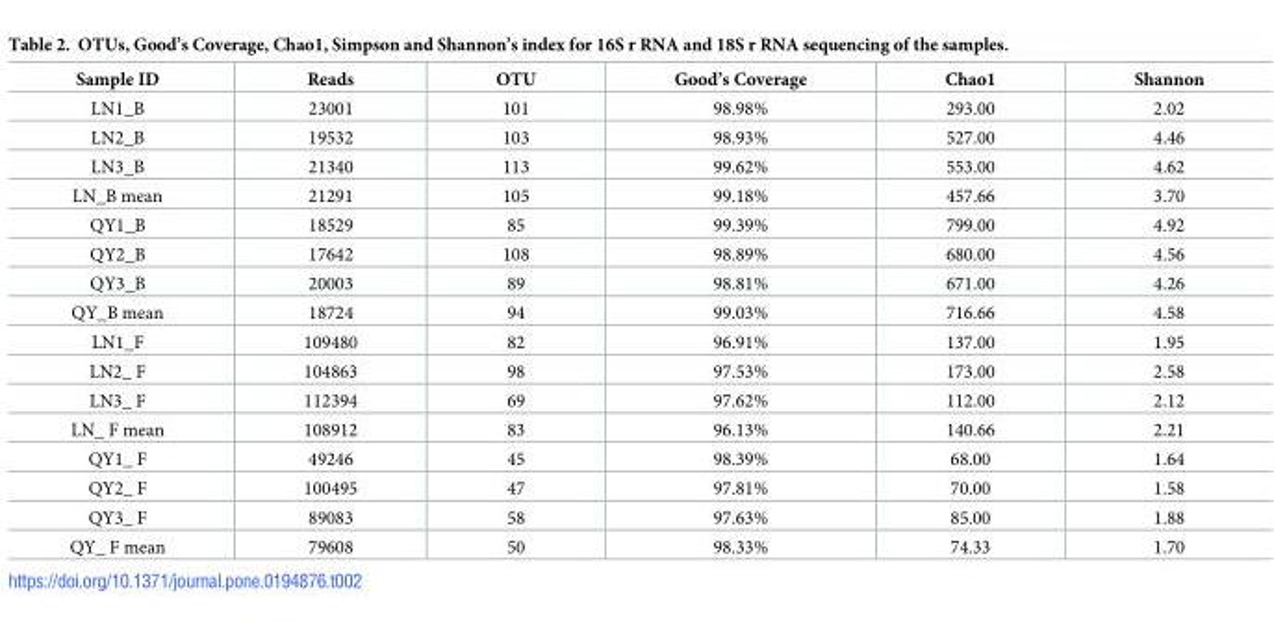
<table><thead><tr><td>Sample ID</td><td>Reads</td><td>OTU</td><td>Good’s Coverage</td><td>Chao1</td><td>Shannon</td></tr></thead><tbody><tr><td>LN1_B</td><td>23001</td><td>101</td><td>98.98%</td><td>293.00</td><td>2.02</td></tr><tr><td>LN2_B</td><td>19532</td><td>103</td><td>98.93%</td><td>527.00</td><td>4.46</td></tr><tr><td>LN3_B</td><td>21340</td><td>113</td><td>99.62%</td><td>553.00</td><td>4.62</td></tr><tr><td>LN_B mean</td><td>21291</td><td>105</td><td>99.18%</td><td>457.66</td><td>3.70</td></tr><tr><td>QY1_B</td><td>18529</td><td>85</td><td>99.39%</td><td>799.00</td><td>4.92</td></tr><tr><td>QY2_B</td><td>17642</td><td>108</td><td>98.89%</td><td>680.00</td><td>4.56</td></tr><tr><td>QY3_B</td><td>20003</td><td>89</td><td>98.81%</td><td>671.00</td><td>4.26</td></tr><tr><td>QY_B mean</td><td>18724</td><td>94</td><td>99.03%</td><td>716.66</td><td>4.58</td></tr><tr><td>LN1_F</td><td>109480</td><td>82</td><td>96.91%</td><td>137.00</td><td>1.95</td></tr><tr><td>LN2_ F</td><td>104863</td><td>98</td><td>97.53%</td><td>173.00</td><td>2.58</td></tr><tr><td>LN3_ F</td><td>112394</td><td>69</td><td>97.62%</td><td>112.00</td><td>2.12</td></tr><tr><td>LN_ F mean</td><td>108912</td><td>83</td><td>96.13%</td><td>140.66</td><td>2.21</td></tr><tr><td>QY1_ F</td><td>49246</td><td>45</td><td>98.39%</td><td>68.00</td><td>1.64</td></tr><tr><td>QY2_ F</td><td>100495</td><td>47</td><td>97.81%</td><td>70.00</td><td>1.58</td></tr><tr><td>QY3_ F</td><td>89083</td><td>58</td><td>97.63%</td><td>85.00</td><td>1.88</td></tr><tr><td>QY_ F mean</td><td>79608</td><td>50</td><td>98.33%</td><td>74.33</td><td>1.70</td></tr></tbody></table>